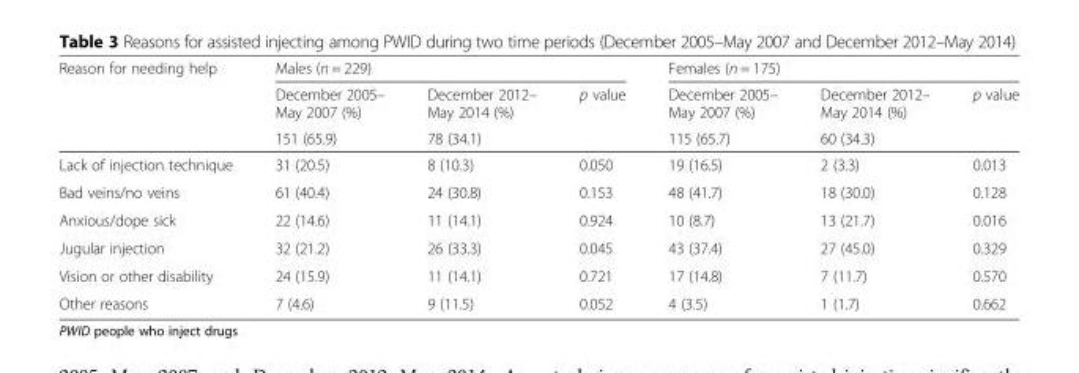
<table><thead><tr><td rowspan="3">Reason for needing help</td><td colspan="3">Males (n = 229)</td><td colspan="3">Females (n = 175)</td></tr><tr><td rowspan="2">December 2005– May 2007 (%) 151 (65.9)</td><td rowspan="2">December 2012– May 2014 (%) 78 (34.1)</td><td rowspan="2">p value</td><td rowspan="2">December 2005– May 2007 (%) 115 (65.7)</td><td rowspan="2">December 2012– May 2014 (%) 60 (34.3)</td><td rowspan="2">p value</td></tr><tr></tr></thead><tbody><tr><td>Lack of injection technique</td><td>31 (20.5)</td><td>8 (10.3)</td><td>0.050</td><td>19 (16.5)</td><td>2 (3.3)</td><td>0.013</td></tr><tr><td>Bad veins/no veins</td><td>61 (40.4)</td><td>24 (30.8)</td><td>0.153</td><td>48 (41.7)</td><td>18 (30.0)</td><td>0.128</td></tr><tr><td>Anxious/dope sick</td><td>22 (14.6)</td><td>11 (14.1)</td><td>0.924</td><td>10 (8.7)</td><td>13 (21.7)</td><td>0.016</td></tr><tr><td>Jugular injection</td><td>32 (21.2)</td><td>26 (33.3)</td><td>0.045</td><td>43 (37.4)</td><td>27 (45.0)</td><td>0.329</td></tr><tr><td>Vision or other disability</td><td>24 (15.9)</td><td>11 (14.1)</td><td>0.721</td><td>17 (14.8)</td><td>7 (11.7)</td><td>0.570</td></tr><tr><td>Other reasons</td><td>7 (4.6)</td><td>9 (11.5)</td><td>0.052</td><td>4 (3.5)</td><td>1 (1.7)</td><td>0.662</td></tr></tbody></table>